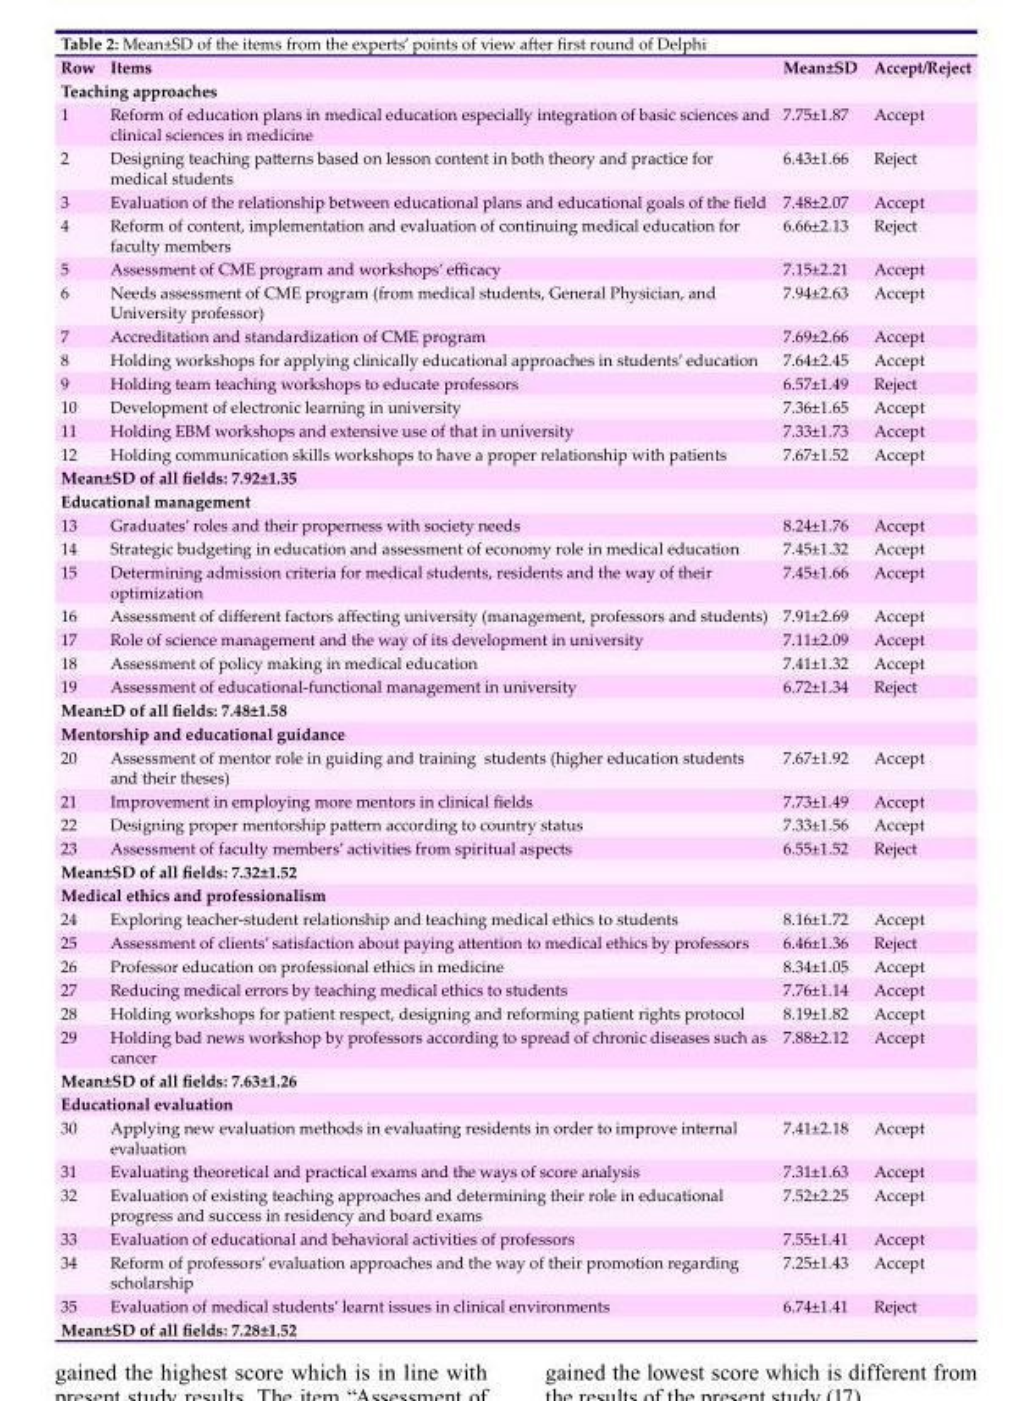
<table><thead><tr><td>Row</td><td>Items</td><td>Mean±SD</td><td>Accept/Reject</td></tr></thead><tbody><tr><td colspan="4">Teaching approaches</td></tr><tr><td>1</td><td>Reform of education plans in medical education especially integration of basic sciences and clinical sciences in medicine</td><td>7.75±1.87</td><td>Accept</td></tr><tr><td>2</td><td>Designing teaching patterns based on lesson content in both theory and practice for medical students</td><td>6.43±1.66</td><td>Reject</td></tr><tr><td>3</td><td>Evaluation of the relationship between educational plans and educational goals of the field</td><td>7.48±2.07</td><td>Accept</td></tr><tr><td>4</td><td>Reform of content, implementation and evaluation of continuing medical education for faculty members</td><td>6.66±2.13</td><td>Reject</td></tr><tr><td>5</td><td>Assessment of CME program and workshops’ efficacy</td><td>7.15±2.21</td><td>Accept</td></tr><tr><td>6</td><td>Needs assessment of CME program (from medical students, General Physician, and University professor)</td><td>7.94±2.63</td><td>Accept</td></tr><tr><td>7</td><td>Accreditation and standardization of CME program</td><td>7.69±2.66</td><td>Accept</td></tr><tr><td>8</td><td>Holding workshops for applying clinically educational approaches in students’ education</td><td>7.64±2.45</td><td>Accept</td></tr><tr><td>9</td><td>Holding team teaching workshops to educate professors</td><td>6.57±1.49</td><td>Reject</td></tr><tr><td>10</td><td>Development of electronic learning in university</td><td>7.36±1.65</td><td>Accept</td></tr><tr><td>11</td><td>Holding EBM workshops and extensive use of that in university</td><td>7.33±1.73</td><td>Accept</td></tr><tr><td>12</td><td>Holding communication skills workshops to have a proper relationship with patients</td><td>7.67±1.52</td><td>Accept</td></tr><tr><td colspan="4">Mean±SD of all fields: 7.92±1.35</td></tr><tr><td colspan="4">Educational management</td></tr><tr><td>13</td><td>Graduates’ roles and their properness with society needs</td><td>8.24±1.76</td><td>Accept</td></tr><tr><td>14</td><td>Strategic budgeting in education and assessment of economy role in medical education</td><td>7.45±1.32</td><td>Accept</td></tr><tr><td>15</td><td>Determining admission criteria for medical students, residents and the way of their optimization</td><td>7.45±1.66</td><td>Accept</td></tr><tr><td>16</td><td>Assessment of different factors affecting university (management, professors and students)</td><td>7.91±2.69</td><td>Accept</td></tr><tr><td>17</td><td>Role of science management and the way of its development in university</td><td>7.11±2.09</td><td>Accept</td></tr><tr><td>18</td><td>Assessment of policy making in medical education</td><td>7.41±1.32</td><td>Accept</td></tr><tr><td>19</td><td>Assessment of educational-functional management in university</td><td>6.72±1.34</td><td>Reject</td></tr><tr><td colspan="4">Mean±D of all fields: 7.48±1.58</td></tr><tr><td colspan="4">Mentorship and educational guidance</td></tr><tr><td>20</td><td>Assessment of mentor role in guiding and training students (higher education students and their theses)</td><td>7.67±1.92</td><td>Accept</td></tr><tr><td>21</td><td>Improvement in employing more mentors in clinical fields</td><td>7.73±1.49</td><td>Accept</td></tr><tr><td>22</td><td>Designing proper mentorship pattern according to country status</td><td>7.33±1.56</td><td>Accept</td></tr><tr><td>23</td><td>Assessment of faculty members’ activities from spiritual aspects</td><td>6.55±1.52</td><td>Reject</td></tr><tr><td colspan="4">Mean±SD of all fields: 7.32±1.52</td></tr><tr><td colspan="4">Medical ethics and professionalism</td></tr><tr><td>24</td><td>Exploring teacher-student relationship and teaching medical ethics to students</td><td>8.16±1.72</td><td>Accept</td></tr><tr><td>25</td><td>Assessment of clients’ satisfaction about paying attention to medical ethics by professors</td><td>6.46±1.36</td><td>Reject</td></tr><tr><td>26</td><td>Professor education on professional ethics in medicine</td><td>8.34±1.05</td><td>Accept</td></tr><tr><td>27</td><td>Reducing medical errors by teaching medical ethics to students</td><td>7.76±1.14</td><td>Accept</td></tr><tr><td>28</td><td>Holding workshops for patient respect, designing and reforming patient rights protocol</td><td>8.19±1.82</td><td>Accept</td></tr><tr><td>29</td><td>Holding bad news workshop by professors according to spread of chronic diseases such as cancer</td><td>7.88±2.12</td><td>Accept</td></tr><tr><td colspan="4">Mean±SD of all fields: 7.63±1.26</td></tr><tr><td colspan="4">Educational evaluation</td></tr><tr><td>30</td><td>Applying new evaluation methods in evaluating residents in order to improve internal evaluation</td><td>7.41±2.18</td><td>Accept</td></tr><tr><td>31</td><td>Evaluating theoretical and practical exams and the ways of score analysis</td><td>7.31±1.63</td><td>Accept</td></tr><tr><td>32</td><td>Evaluation of existing teaching approaches and determining their role in educational progress and success in residency and board exams</td><td>7.52±2.25</td><td>Accept</td></tr><tr><td>33</td><td>Evaluation of educational and behavioral activities of professors</td><td>7.55±1.41</td><td>Accept</td></tr><tr><td>34</td><td>Reform of professors’ evaluation approaches and the way of their promotion regarding scholarship</td><td>7.25±1.43</td><td>Accept</td></tr><tr><td>35</td><td>Evaluation of medical students’ learnt issues in clinical environments</td><td>6.74±1.41</td><td>Reject</td></tr><tr><td colspan="4">Mean±SD of all fields: 7.28±1.52</td></tr></tbody></table>